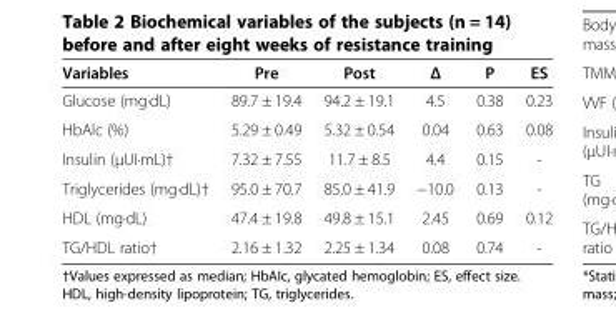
<table><thead><tr><td>Variables</td><td>Pre</td><td>Post</td><td>Δ</td><td>P</td><td>ES</td></tr></thead><tbody><tr><td>Glucose (mg·dL)</td><td>89.7 ± 19.4</td><td>94.2 ± 19.1</td><td>4.5</td><td>0.38</td><td>0.23</td></tr><tr><td>HbAIc (%)</td><td>5.29 ± 0.49</td><td>5.32 ± 0.54</td><td>0.04</td><td>0.63</td><td>0.08</td></tr><tr><td>Insulin (μUI·mL)†</td><td>7.32 ± 7.55</td><td>11.7 ± 8.5</td><td>4.4</td><td>0.15</td><td>-</td></tr><tr><td>Triglycerides (mg·dL)†</td><td>95.0 ± 70.7</td><td>85.0 ± 41.9</td><td>−10.0</td><td>0.13</td><td>-</td></tr><tr><td>HDL (mg·dL)</td><td>47.4 ± 19.8</td><td>49.8 ± 15.1</td><td>2.45</td><td>0.69</td><td>0.12</td></tr><tr><td>TG/HDL ratio†</td><td>2.16 ± 1.32</td><td>2.25 ± 1.34</td><td>0.08</td><td>0.74</td><td>-</td></tr></tbody></table>